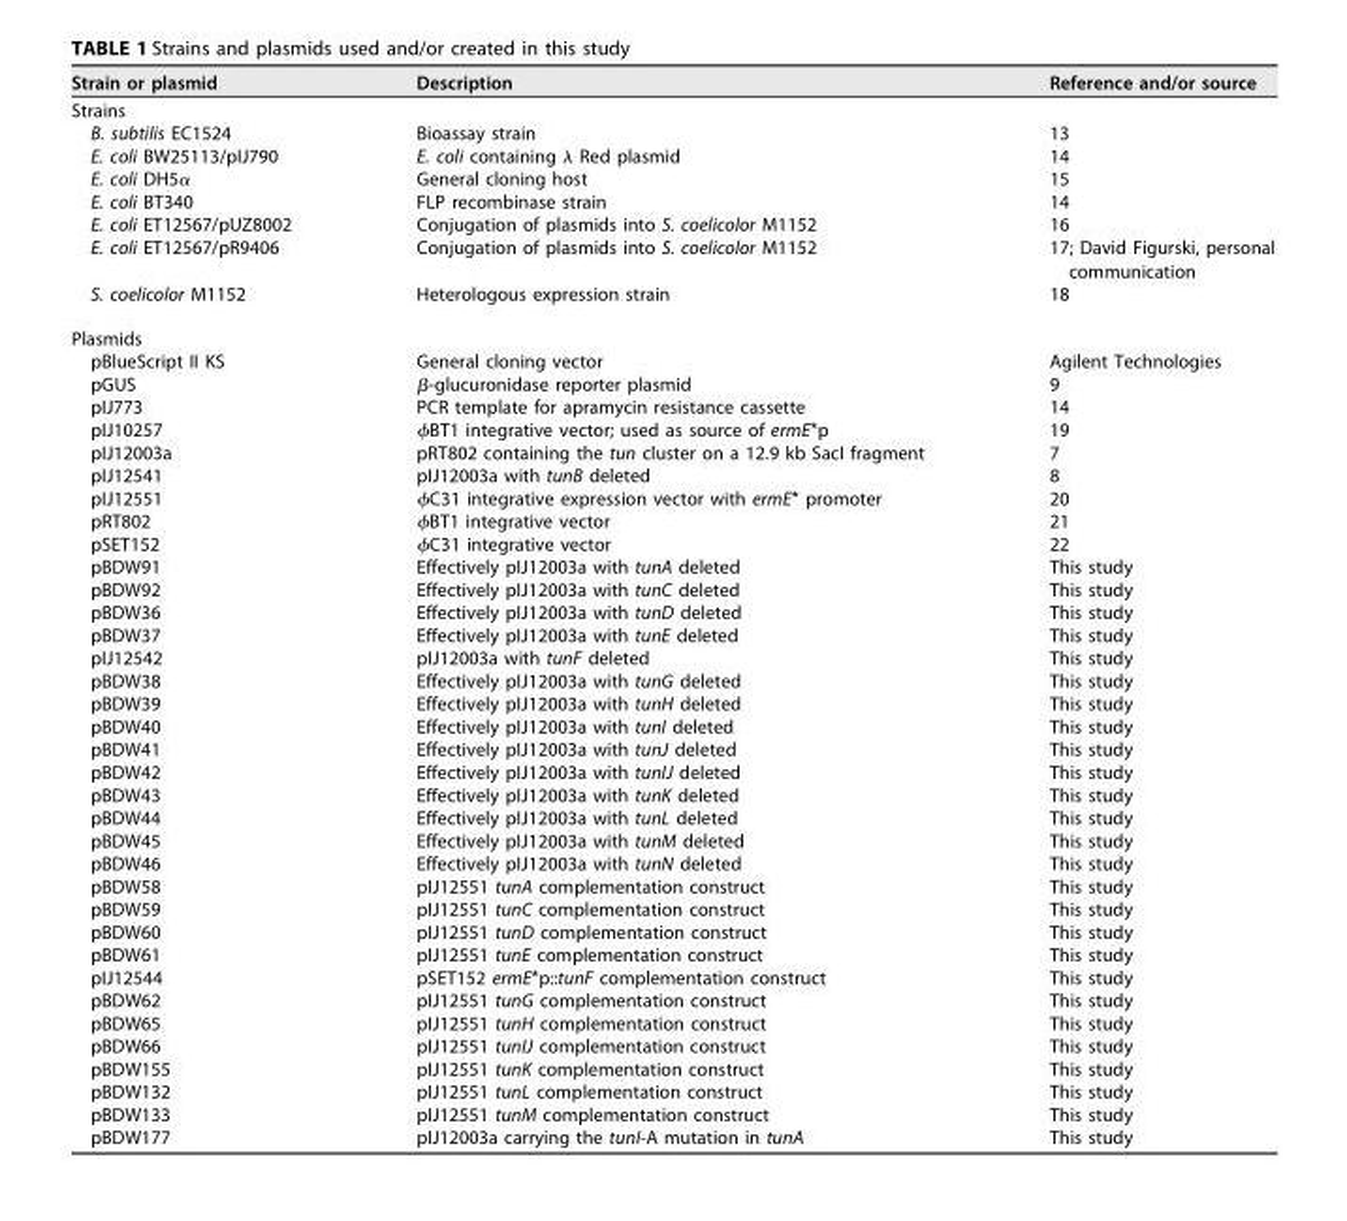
<table><thead><tr><td>Strain or plasmid</td><td>Description</td><td>Reference and/or source</td></tr></thead><tbody><tr><td colspan="3">Strains</td></tr><tr><td>B. subtilis EC1524</td><td>Bioassay strain</td><td>13</td></tr><tr><td>E. coli BW25113/pIJ790</td><td>E. coli containing λ Red plasmid</td><td>14</td></tr><tr><td>E. coli DH5α</td><td>General cloning host</td><td>15</td></tr><tr><td>E. coli BT340</td><td>FLP recombinase strain</td><td>14</td></tr><tr><td>E. coli ET12567/pUZ8002</td><td>Conjugation of plasmids into S. coelicolor M1152</td><td>16</td></tr><tr><td>E. coli ET12567/pR9406</td><td>Conjugation of plasmids into S. coelicolor M1152</td><td>17; David Figurski, personal communication</td></tr><tr><td>S. coelicolor M1152</td><td>Heterologous expression strain</td><td>18</td></tr><tr><td colspan="3">Plasmids</td></tr><tr><td>pBlueScript II KS</td><td>General cloning vector</td><td>Agilent Technologies</td></tr><tr><td>pGUS</td><td>β-glucuronidase reporter plasmid</td><td>9</td></tr><tr><td>pIJ773</td><td>PCR template for apramycin resistance cassette</td><td>14</td></tr><tr><td>pIJ10257</td><td>ϕBT1 integrative vector; used as source of ermE*p</td><td>19</td></tr><tr><td>pIJ12003a</td><td>pRT802 containing the tun cluster on a 12.9 kb SacI fragment</td><td>7</td></tr><tr><td>pIJ12541</td><td>pIJ12003a with tunB deleted</td><td>8</td></tr><tr><td>pIJ12551</td><td>ϕC31 integrative expression vector with ermE* promoter</td><td>20</td></tr><tr><td>pRT802</td><td>ϕBT1 integrative vector</td><td>21</td></tr><tr><td>pSET152</td><td>ϕC31 integrative vector</td><td>22</td></tr><tr><td>pBDW91</td><td>Effectively pIJ12003a with tunA deleted</td><td>This study</td></tr><tr><td>pBDW92</td><td>Effectively pIJ12003a with tunC deleted</td><td>This study</td></tr><tr><td>pBDW36</td><td>Effectively pIJ12003a with tunD deleted</td><td>This study</td></tr><tr><td>pBDW37</td><td>Effectively pIJ12003a with tunE deleted</td><td>This study</td></tr><tr><td>pIJ12542</td><td>pIJ12003a with tunF deleted</td><td>This study</td></tr><tr><td>pBDW38</td><td>Effectively pIJ12003a with tunG deleted</td><td>This study</td></tr><tr><td>pBDW39</td><td>Effectively pIJ12003a with tunH deleted</td><td>This study</td></tr><tr><td>pBDW40</td><td>Effectively pIJ12003a with tunI deleted</td><td>This study</td></tr><tr><td>pBDW41</td><td>Effectively pIJ12003a with tunJ deleted</td><td>This study</td></tr><tr><td>pBDW42</td><td>Effectively pIJ12003a with tunIJ deleted</td><td>This study</td></tr><tr><td>pBDW43</td><td>Effectively pIJ12003a with tunK deleted</td><td>This study</td></tr><tr><td>pBDW44</td><td>Effectively pIJ12003a with tunL deleted</td><td>This study</td></tr><tr><td>pBDW45</td><td>Effectively pIJ12003a with tunM deleted</td><td>This study</td></tr><tr><td>pBDW46</td><td>Effectively pIJ12003a with tunN deleted</td><td>This study</td></tr><tr><td>pBDW58</td><td>pIJ12551 tunA complementation construct</td><td>This study</td></tr><tr><td>pBDW59</td><td>pIJ12551 tunC complementation construct</td><td>This study</td></tr><tr><td>pBDW60</td><td>pIJ12551 tunD complementation construct</td><td>This study</td></tr><tr><td>pBDW61</td><td>pIJ12551 tunE complementation construct</td><td>This study</td></tr><tr><td>pIJ12544</td><td>pSET152 ermE*p::tunF complementation construct</td><td>This study</td></tr><tr><td>pBDW62</td><td>pIJ12551 tunG complementation construct</td><td>This study</td></tr><tr><td>pBDW65</td><td>pIJ12551 tunH complementation construct</td><td>This study</td></tr><tr><td>pBDW66</td><td>pIJ12551 tunIJ complementation construct</td><td>This study</td></tr><tr><td>pBDW155</td><td>pIJ12551 tunK complementation construct</td><td>This study</td></tr><tr><td>pBDW132</td><td>pIJ12551 tunL complementation construct</td><td>This study</td></tr><tr><td>pBDW133</td><td>pIJ12551 tunM complementation construct</td><td>This study</td></tr><tr><td>pBDW177</td><td>pIJ12003a carrying the tunI-A mutation in tunA</td><td>This study</td></tr></tbody></table>